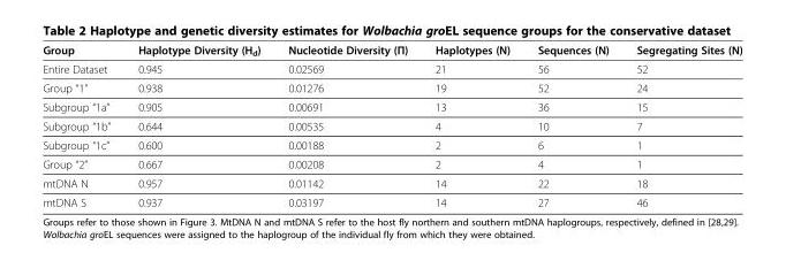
<table><thead><tr><td>Group</td><td>Haplotype Diversity (H<sub>d</sub>)</td><td>Nucleotide Diversity (Π)</td><td>Haplotypes (N)</td><td>Sequences (N)</td><td>Segregating Sites (N)</td></tr></thead><tbody><tr><td>Entire Dataset</td><td>0.945</td><td>0.02569</td><td>21</td><td>56</td><td>52</td></tr><tr><td>Group “1”</td><td>0.938</td><td>0.01276</td><td>19</td><td>52</td><td>24</td></tr><tr><td>Subgroup “1a”</td><td>0.905</td><td>0.00691</td><td>13</td><td>36</td><td>15</td></tr><tr><td>Subgroup “1b”</td><td>0.644</td><td>0.00535</td><td>4</td><td>10</td><td>7</td></tr><tr><td>Subgroup “1c”</td><td>0.600</td><td>0.00188</td><td>2</td><td>6</td><td>1</td></tr><tr><td>Group “2”</td><td>0.667</td><td>0.00208</td><td>2</td><td>4</td><td>1</td></tr><tr><td>mtDNA N</td><td>0.957</td><td>0.01142</td><td>14</td><td>22</td><td>18</td></tr><tr><td>mtDNA S</td><td>0.937</td><td>0.03197</td><td>14</td><td>27</td><td>46</td></tr></tbody></table>